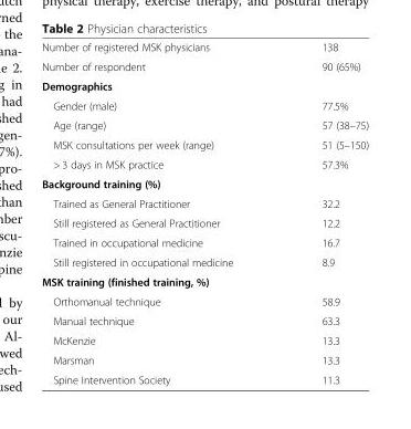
<table><tbody><tr><td>Number of registered MSK physicians</td><td>138</td></tr><tr><td>Number of respondent</td><td>90 (65%)</td></tr><tr><td colspan="2">Demographics</td></tr><tr><td>Gender (male)</td><td>77.5%</td></tr><tr><td>Age (range)</td><td>57 (38–75)</td></tr><tr><td>MSK consultations per week (range)</td><td>51 (5–150)</td></tr><tr><td>&gt; 3 days in MSK practice</td><td>57.3%</td></tr><tr><td colspan="2">Background training (%)</td></tr><tr><td>Trained as General Practitioner</td><td>32.2</td></tr><tr><td>Still registered as General Practitioner</td><td>12.2</td></tr><tr><td>Trained in occupational medicine</td><td>16.7</td></tr><tr><td>Still registered in occupational medicine</td><td>8.9</td></tr><tr><td colspan="2">MSK training (finished training, %)</td></tr><tr><td>Orthomanual technique</td><td>58.9</td></tr><tr><td>Manual technique</td><td>63.3</td></tr><tr><td>McKenzie</td><td>13.3</td></tr><tr><td>Marsman</td><td>13.3</td></tr><tr><td>Spine Intervention Society</td><td>11.3</td></tr></tbody></table>